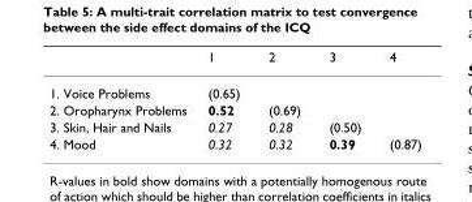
<table><thead><tr><td></td><td>1</td><td>2</td><td>3</td><td>4</td></tr></thead><tbody><tr><td>1. Voice Problems</td><td>(0.65)</td><td></td><td></td><td></td></tr><tr><td>2. Oropharynx Problems</td><td>0.52</td><td>(0.69)</td><td></td><td></td></tr><tr><td>3. Skin, Hair and Nails</td><td>0.27</td><td>0.28</td><td>(0.50)</td><td></td></tr><tr><td>4. Mood</td><td>0.32</td><td>0.32</td><td>0.39</td><td>(0.87)</td></tr></tbody></table>